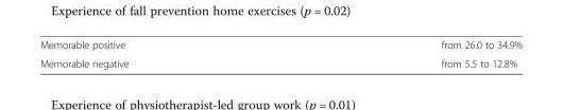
<table><tbody><tr><td>Memorable positive</td><td>from 26.0 to 34.9%</td></tr><tr><td>Memorable negative</td><td>from 5.5 to 12.8%</td></tr></tbody></table>